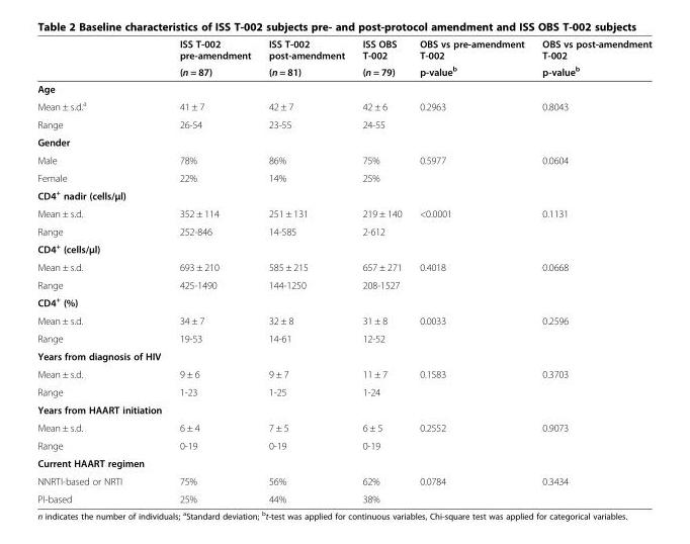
<table><thead><tr><td rowspan="2"></td><td rowspan="2">ISS T-002 pre-amendment (n = 87)</td><td rowspan="2">ISS T-002 post-amendment (n = 81)</td><td rowspan="2">ISS OBS T-002 (n = 79)</td><td rowspan="2">OBS vs pre-amendment T-002 p-value<sup>b</sup></td><td rowspan="2">OBS vs post-amendment T-002 p-value<sup>b</sup></td></tr><tr></tr></thead><tbody><tr><td colspan="6">Age</td></tr><tr><td>Mean ± s.d.<sup>a</sup></td><td>41 ± 7</td><td>42 ± 7</td><td>42 ± 6</td><td>0.2963</td><td>0.8043</td></tr><tr><td>Range</td><td>26-54</td><td>23-55</td><td>24-55</td><td></td><td></td></tr><tr><td colspan="6">Gender</td></tr><tr><td>Male</td><td>78%</td><td>86%</td><td>75%</td><td>0.5977</td><td>0.0604</td></tr><tr><td>Female</td><td>22%</td><td>14%</td><td>25%</td><td></td><td></td></tr><tr><td colspan="6">CD4<sup>+</sup> nadir (cells/μl)</td></tr><tr><td>Mean ± s.d.</td><td>352 ± 114</td><td>251 ± 131</td><td>219 ± 140</td><td>&lt;0.0001</td><td>0.1131</td></tr><tr><td>Range</td><td>252-846</td><td>14-585</td><td>2-612</td><td></td><td></td></tr><tr><td colspan="6">CD4<sup>+</sup> (cells/μl)</td></tr><tr><td>Mean ± s.d.</td><td>693 ± 210</td><td>585 ± 215</td><td>657 ± 271</td><td>0.4018</td><td>0.0668</td></tr><tr><td>Range</td><td>425-1490</td><td>144-1250</td><td>208-1527</td><td></td><td></td></tr><tr><td colspan="6">CD4<sup>+</sup> (%)</td></tr><tr><td>Mean ± s.d.</td><td>34 ± 7</td><td>32 ± 8</td><td>31 ± 8</td><td>0.0033</td><td>0.2596</td></tr><tr><td>Range</td><td>19-53</td><td>14-61</td><td>12-52</td><td></td><td></td></tr><tr><td colspan="6">Years from diagnosis of HIV</td></tr><tr><td>Mean ± s.d.</td><td>9 ± 6</td><td>9 ± 7</td><td>11 ± 7</td><td>0.1583</td><td>0.3703</td></tr><tr><td>Range</td><td>1-23</td><td>1-25</td><td>1-24</td><td></td><td></td></tr><tr><td colspan="6">Years from HAART initiation</td></tr><tr><td>Mean ± s.d.</td><td>6 ± 4</td><td>7 ± 5</td><td>6 ± 5</td><td>0.2552</td><td>0.9073</td></tr><tr><td>Range</td><td>0-19</td><td>0-19</td><td>0-19</td><td></td><td></td></tr><tr><td colspan="6">Current HAART regimen</td></tr><tr><td>NNRTI-based or NRTI</td><td>75%</td><td>56%</td><td>62%</td><td>0.0784</td><td>0.3434</td></tr><tr><td>PI-based</td><td>25%</td><td>44%</td><td>38%</td><td></td><td></td></tr></tbody></table>